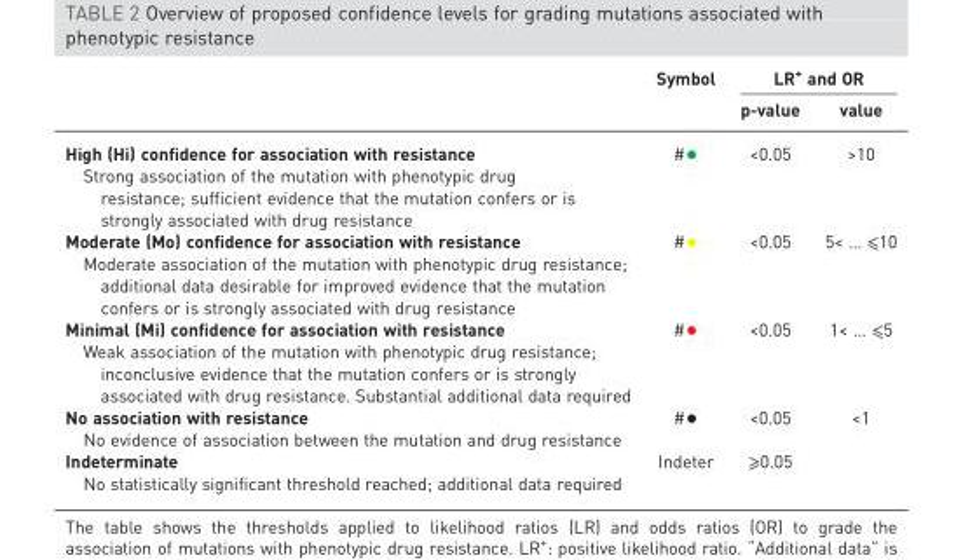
<table><thead><tr><td rowspan="2"></td><td rowspan="2">Symbol</td><td colspan="2">LR<sup>+</sup> and OR</td></tr><tr><td>p-value</td><td>value</td></tr></thead><tbody><tr><td>High (Hi) confidence for association with resistance Strong association of the mutation with phenotypic drug resistance; sufficient evidence that the mutation confers or is strongly associated with drug resistance</td><td>#•</td><td>&lt;0.05</td><td>&gt;10</td></tr><tr><td>Moderate (Mo) confidence for association with resistance Moderate association of the mutation with phenotypic drug resistance; additional data desirable for improved evidence that the mutation confers or is strongly associated with drug resistance</td><td>#•</td><td>&lt;0.05</td><td>5&lt; … ⩽10</td></tr><tr><td>Minimal (Mi) confidence for association with resistance Weak association of the mutation with phenotypic drug resistance; inconclusive evidence that the mutation confers or is strongly associated with drug resistance. Substantial additional data required</td><td>#•</td><td>&lt;0.05</td><td>1&lt; … ⩽5</td></tr><tr><td>No association with resistance No evidence of association between the mutation and drug resistance</td><td>#•</td><td>&lt;0.05</td><td>&lt;1</td></tr><tr><td>Indeterminate No statistically significant threshold reached; additional data required</td><td>Indeter</td><td>⩾0.05</td><td></td></tr></tbody></table>